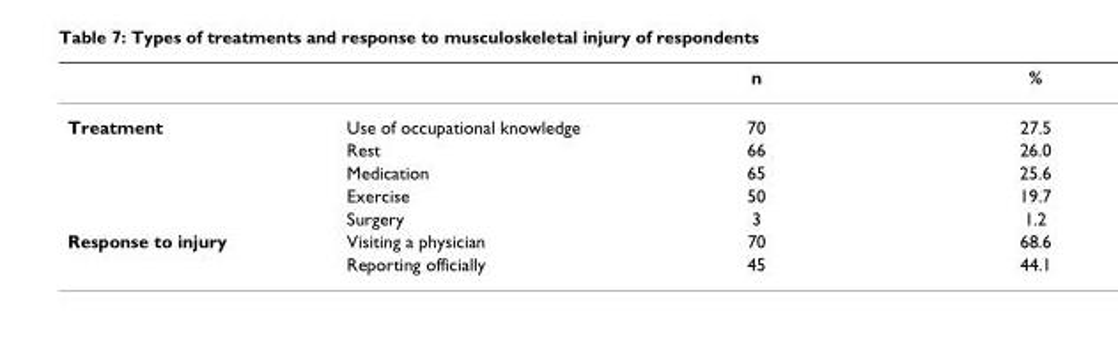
<table><thead><tr><td></td><td></td><td>n</td><td>%</td></tr></thead><tbody><tr><td rowspan="5">Treatment</td><td>Use of occupational knowledge</td><td>70</td><td>27.5</td></tr><tr><td>Rest</td><td>66</td><td>26.0</td></tr><tr><td>Medication</td><td>65</td><td>25.6</td></tr><tr><td>Exercise</td><td>50</td><td>19.7</td></tr><tr><td>Surgery</td><td>3</td><td>1.2</td></tr><tr><td rowspan="2">Response to injury</td><td>Visiting a physician</td><td>70</td><td>68.6</td></tr><tr><td>Reporting officially</td><td>45</td><td>44.1</td></tr></tbody></table>